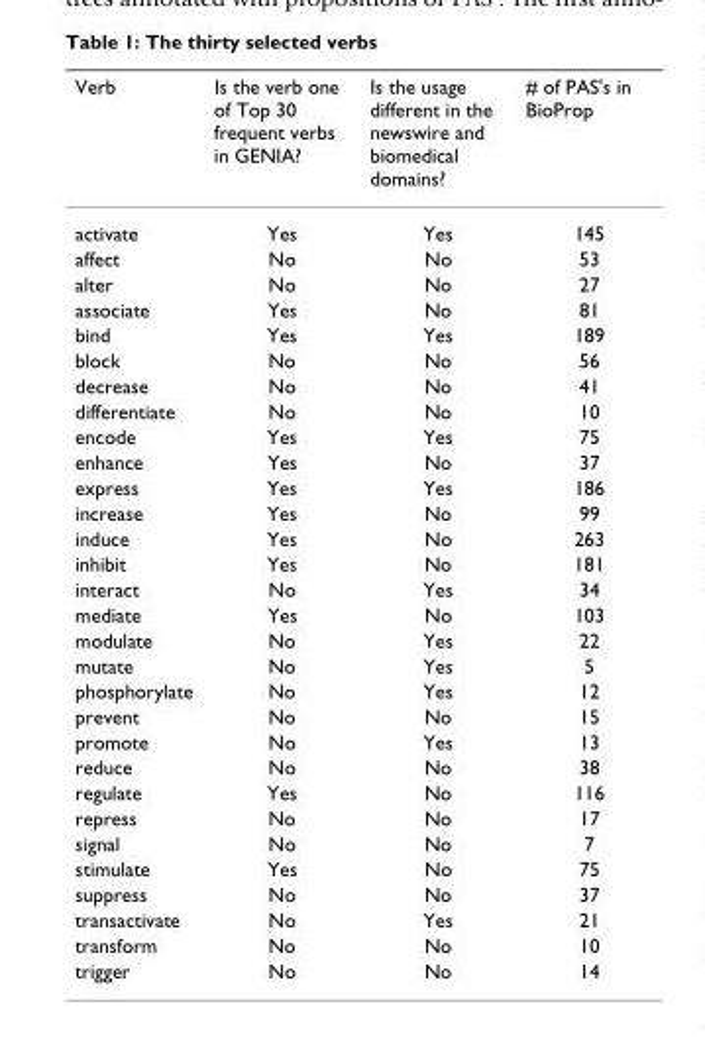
<table><thead><tr><td>Verb</td><td>Is the verb one of Top 30 frequent verbs in GENIA?</td><td>Is the usage different in the newswire and biomedical domains?</td><td># of PAS&#x27;s in BioProp</td></tr></thead><tbody><tr><td>activate</td><td>Yes</td><td>Yes</td><td>145</td></tr><tr><td>affect</td><td>No</td><td>No</td><td>53</td></tr><tr><td>alter</td><td>No</td><td>No</td><td>27</td></tr><tr><td>associate</td><td>Yes</td><td>No</td><td>81</td></tr><tr><td>bind</td><td>Yes</td><td>Yes</td><td>189</td></tr><tr><td>block</td><td>No</td><td>No</td><td>56</td></tr><tr><td>decrease</td><td>No</td><td>No</td><td>41</td></tr><tr><td>differentiate</td><td>No</td><td>No</td><td>10</td></tr><tr><td>encode</td><td>Yes</td><td>Yes</td><td>75</td></tr><tr><td>enhance</td><td>Yes</td><td>No</td><td>37</td></tr><tr><td>express</td><td>Yes</td><td>Yes</td><td>186</td></tr><tr><td>increase</td><td>Yes</td><td>No</td><td>99</td></tr><tr><td>induce</td><td>Yes</td><td>No</td><td>263</td></tr><tr><td>inhibit</td><td>Yes</td><td>No</td><td>181</td></tr><tr><td>interact</td><td>No</td><td>Yes</td><td>34</td></tr><tr><td>mediate</td><td>Yes</td><td>No</td><td>103</td></tr><tr><td>modulate</td><td>No</td><td>Yes</td><td>22</td></tr><tr><td>mutate</td><td>No</td><td>Yes</td><td>5</td></tr><tr><td>phosphorylate</td><td>No</td><td>Yes</td><td>12</td></tr><tr><td>prevent</td><td>No</td><td>No</td><td>15</td></tr><tr><td>promote</td><td>No</td><td>Yes</td><td>13</td></tr><tr><td>reduce</td><td>No</td><td>No</td><td>38</td></tr><tr><td>regulate</td><td>Yes</td><td>No</td><td>116</td></tr><tr><td>repress</td><td>No</td><td>No</td><td>17</td></tr><tr><td>signal</td><td>No</td><td>No</td><td>7</td></tr><tr><td>stimulate</td><td>Yes</td><td>No</td><td>75</td></tr><tr><td>suppress</td><td>No</td><td>No</td><td>37</td></tr><tr><td>transactivate</td><td>No</td><td>Yes</td><td>21</td></tr><tr><td>transform</td><td>No</td><td>No</td><td>10</td></tr><tr><td>trigger</td><td>No</td><td>No</td><td>14</td></tr></tbody></table>